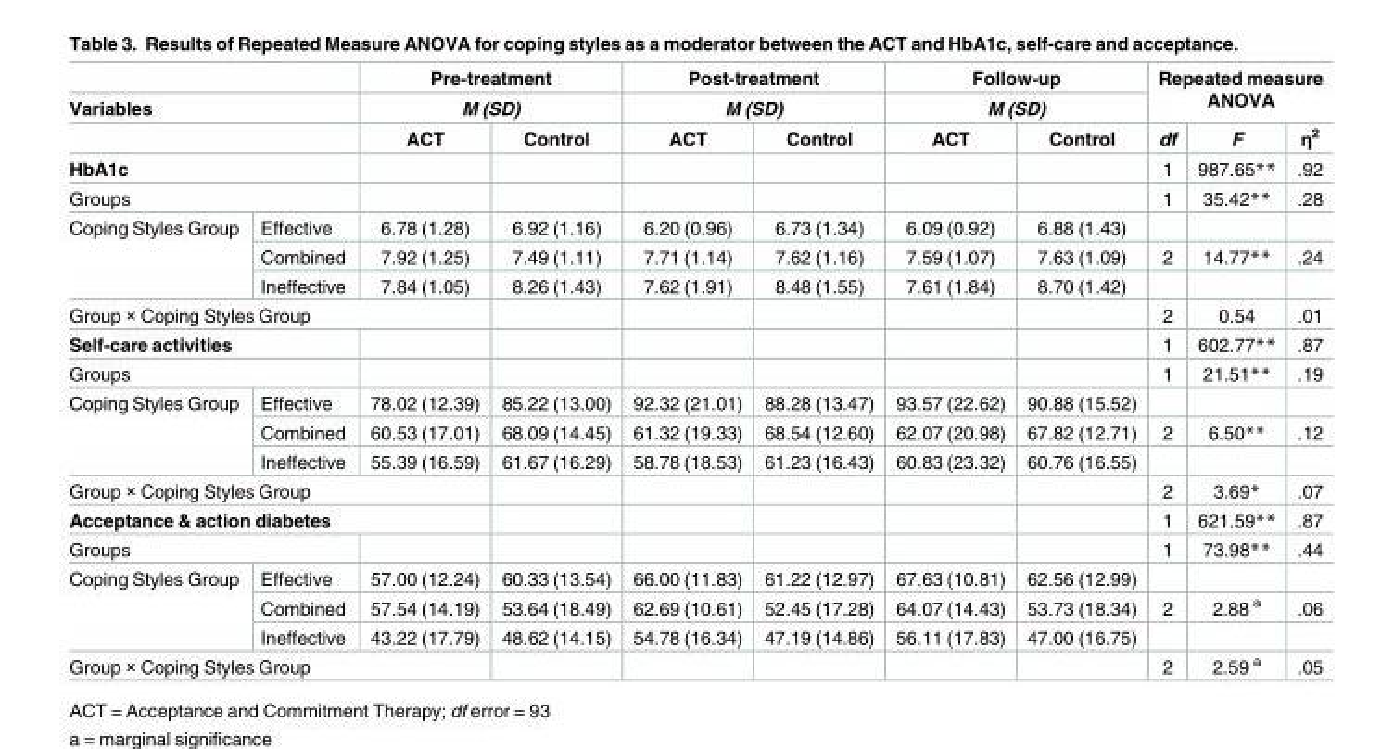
<table><thead><tr><td></td><td></td><td rowspan="2" colspan="2">Pre-treatment M (SD)</td><td rowspan="2" colspan="2">Post-treatment M (SD)</td><td rowspan="2" colspan="2">Follow-up M (SD)</td><td rowspan="2" colspan="3">Repeated measure ANOVA</td></tr><tr><td colspan="2">Variables</td></tr><tr><td></td><td></td><td>ACT</td><td>Control</td><td>ACT</td><td>Control</td><td>ACT</td><td>Control</td><td>df</td><td>F</td><td>η<sup>2</sup></td></tr></thead><tbody><tr><td colspan="2">HbA1c</td><td></td><td></td><td></td><td></td><td></td><td></td><td>1</td><td>987.65**</td><td>.92</td></tr><tr><td colspan="2">Groups</td><td></td><td></td><td></td><td></td><td></td><td></td><td>1</td><td>35.42**</td><td>.28</td></tr><tr><td rowspan="3">Coping Styles Group</td><td>Effective</td><td>6.78 (1.28)</td><td>6.92 (1.16)</td><td>6.20 (0.96)</td><td>6.73 (1.34)</td><td>6.09 (0.92)</td><td>6.88 (1.43)</td><td></td><td></td><td></td></tr><tr><td>Combined</td><td>7.92 (1.25)</td><td>7.49 (1.11)</td><td>7.71 (1.14)</td><td>7.62 (1.16)</td><td>7.59 (1.07)</td><td>7.63 (1.09)</td><td>2</td><td>14.77**</td><td>.24</td></tr><tr><td>Ineffective</td><td>7.84 (1.05)</td><td>8.26 (1.43)</td><td>7.62 (1.91)</td><td>8.48 (1.55)</td><td>7.61 (1.84)</td><td>8.70 (1.42)</td><td></td><td></td><td></td></tr><tr><td colspan="3">Group × Coping Styles Group</td><td></td><td></td><td></td><td></td><td></td><td>2</td><td>0.54</td><td>.01</td></tr><tr><td colspan="2">Self-care activities</td><td></td><td></td><td></td><td></td><td></td><td></td><td>1</td><td>602.77**</td><td>.87</td></tr><tr><td colspan="2">Groups</td><td></td><td></td><td></td><td></td><td></td><td></td><td>1</td><td>21.51**</td><td>.19</td></tr><tr><td rowspan="3">Coping Styles Group</td><td>Effective</td><td>78.02 (12.39)</td><td>85.22 (13.00)</td><td>92.32 (21.01)</td><td>88.28 (13.47)</td><td>93.57 (22.62)</td><td>90.88 (15.52)</td><td></td><td></td><td></td></tr><tr><td>Combined</td><td>60.53 (17.01)</td><td>68.09 (14.45)</td><td>61.32 (19.33)</td><td>68.54 (12.60)</td><td>62.07 (20.98)</td><td>67.82 (12.71)</td><td>2</td><td>6.50**</td><td>.12</td></tr><tr><td>Ineffective</td><td>55.39 (16.59)</td><td>61.67 (16.29)</td><td>58.78 (18.53)</td><td>61.23 (16.43)</td><td>60.83 (23.32)</td><td>60.76 (16.55)</td><td></td><td></td><td></td></tr><tr><td colspan="3">Group × Coping Styles Group</td><td></td><td></td><td></td><td></td><td></td><td>2</td><td>3.69*</td><td>.07</td></tr><tr><td colspan="3">Acceptance &amp; action diabetes</td><td></td><td></td><td></td><td></td><td></td><td>1</td><td>621.59**</td><td>.87</td></tr><tr><td colspan="2">Groups</td><td></td><td></td><td></td><td></td><td></td><td></td><td>1</td><td>73.98**</td><td>.44</td></tr><tr><td rowspan="3">Coping Styles Group</td><td>Effective</td><td>57.00 (12.24)</td><td>60.33 (13.54)</td><td>66.00 (11.83)</td><td>61.22 (12.97)</td><td>67.63 (10.81)</td><td>62.56 (12.99)</td><td></td><td></td><td></td></tr><tr><td>Combined</td><td>57.54 (14.19)</td><td>53.64 (18.49)</td><td>62.69 (10.61)</td><td>52.45 (17.28)</td><td>64.07 (14.43)</td><td>53.73 (18.34)</td><td>2</td><td>2.88 <sup>a</sup></td><td>.06</td></tr><tr><td>Ineffective</td><td>43.22 (17.79)</td><td>48.62 (14.15)</td><td>54.78 (16.34)</td><td>47.19 (14.86)</td><td>56.11 (17.83)</td><td>47.00 (16.75)</td><td></td><td></td><td></td></tr><tr><td colspan="3">Group × Coping Styles Group</td><td></td><td></td><td></td><td></td><td></td><td>2</td><td>2.59 <sup>a</sup></td><td>.05</td></tr></tbody></table>